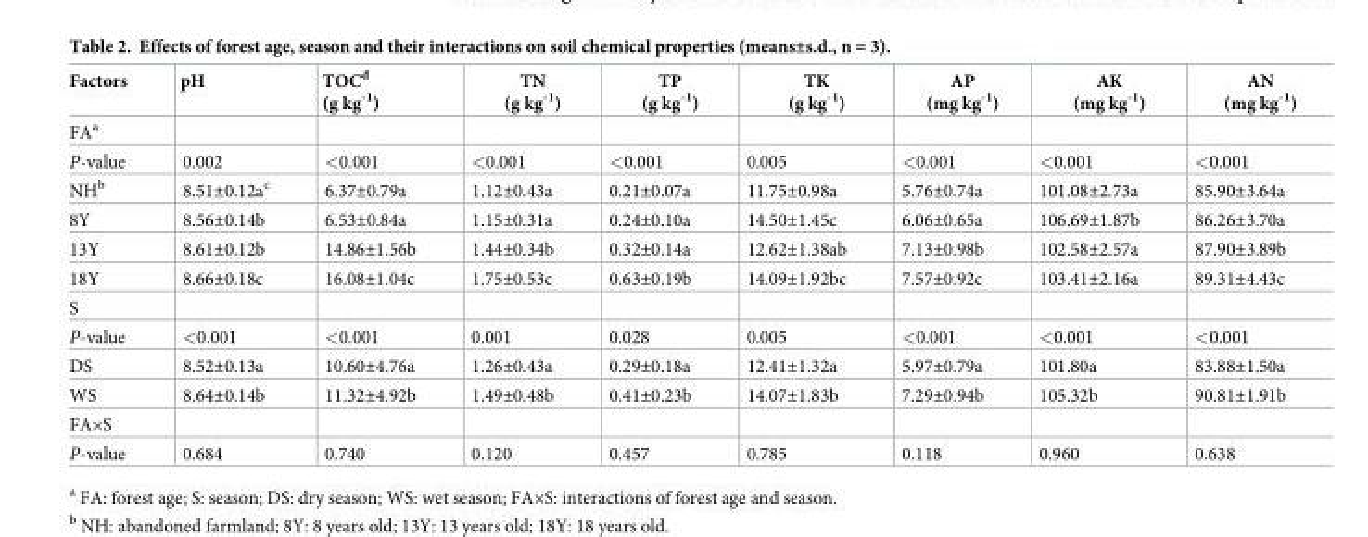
<table><thead><tr><td>Factors</td><td>pH</td><td>TOC<sup>d</sup> (g kg<sup>-1</sup>)</td><td>TN (g kg<sup>-1</sup>)</td><td>TP (g kg<sup>-1</sup>)</td><td>TK (g kg<sup>-1</sup>)</td><td>AP (mg kg<sup>-1</sup>)</td><td>AK (mg kg<sup>-1</sup>)</td><td>AN (mg kg<sup>-1</sup>)</td></tr></thead><tbody><tr><td colspan="9">FA<sup>a</sup></td></tr><tr><td>P-value</td><td>0.002</td><td>&lt;0.001</td><td>&lt;0.001</td><td>&lt;0.001</td><td>0.005</td><td>&lt;0.001</td><td>&lt;0.001</td><td>&lt;0.001</td></tr><tr><td>NH<sup>b</sup></td><td>8.51±0.12a<sup>c</sup></td><td>6.37±0.79a</td><td>1.12±0.43a</td><td>0.21±0.07a</td><td>11.75±0.98a</td><td>5.76±0.74a</td><td>101.08±2.73a</td><td>85.90±3.64a</td></tr><tr><td>8Y</td><td>8.56±0.14b</td><td>6.53±0.84a</td><td>1.15±0.31a</td><td>0.24±0.10a</td><td>14.50±1.45c</td><td>6.06±0.65a</td><td>106.69±1.87b</td><td>86.26±3.70a</td></tr><tr><td>13Y</td><td>8.61±0.12b</td><td>14.86±1.56b</td><td>1.44±0.34b</td><td>0.32±0.14a</td><td>12.62±1.38ab</td><td>7.13±0.98b</td><td>102.58±2.57a</td><td>87.90±3.89b</td></tr><tr><td>18Y</td><td>8.66±0.18c</td><td>16.08±1.04c</td><td>1.75±0.53c</td><td>0.63±0.19b</td><td>14.09±1.92bc</td><td>7.57±0.92c</td><td>103.41±2.16a</td><td>89.31±4.43c</td></tr><tr><td colspan="9">S</td></tr><tr><td>P-value</td><td>&lt;0.001</td><td>&lt;0.001</td><td>0.001</td><td>0.028</td><td>0.005</td><td>&lt;0.001</td><td>&lt;0.001</td><td>&lt;0.001</td></tr><tr><td>DS</td><td>8.52±0.13a</td><td>10.60±4.76a</td><td>1.26±0.43a</td><td>0.29±0.18a</td><td>12.41±1.32a</td><td>5.97±0.79a</td><td>101.80a</td><td>83.88±1.50a</td></tr><tr><td>WS</td><td>8.64±0.14b</td><td>11.32±4.92b</td><td>1.49±0.48b</td><td>0.41±0.23b</td><td>14.07±1.83b</td><td>7.29±0.94b</td><td>105.32b</td><td>90.81±1.91b</td></tr><tr><td colspan="9">FA×S</td></tr><tr><td>P-value</td><td>0.684</td><td>0.740</td><td>0.120</td><td>0.457</td><td>0.785</td><td>0.118</td><td>0.960</td><td>0.638</td></tr></tbody></table>